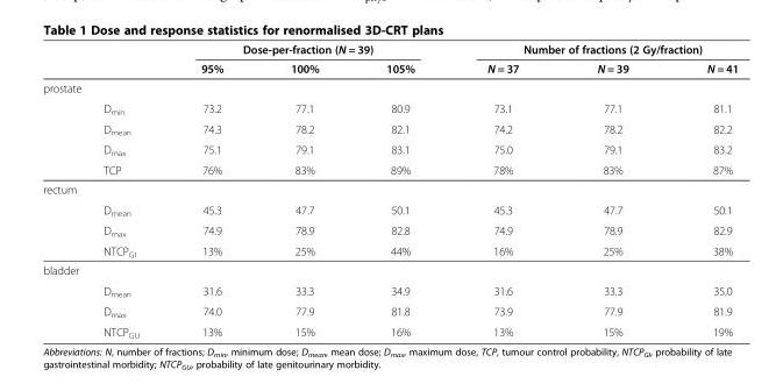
<table><thead><tr><td rowspan="2"></td><td rowspan="2"></td><td colspan="3">Dose-per-fraction (N = 39)</td><td colspan="3">Number of fractions (2 Gy/fraction)</td></tr><tr><td>95%</td><td>100%</td><td>105%</td><td>N = 37</td><td>N = 39</td><td>N = 41</td></tr></thead><tbody><tr><td colspan="8">prostate</td></tr><tr><td></td><td>D<sub>min</sub></td><td>73.2</td><td>77.1</td><td>80.9</td><td>73.1</td><td>77.1</td><td>81.1</td></tr><tr><td></td><td>D<sub>mean</sub></td><td>74.3</td><td>78.2</td><td>82.1</td><td>74.2</td><td>78.2</td><td>82.2</td></tr><tr><td></td><td>D<sub>max</sub></td><td>75.1</td><td>79.1</td><td>83.1</td><td>75.0</td><td>79.1</td><td>83.2</td></tr><tr><td></td><td>TCP</td><td>76%</td><td>83%</td><td>89%</td><td>78%</td><td>83%</td><td>87%</td></tr><tr><td colspan="8">rectum</td></tr><tr><td></td><td>D<sub>mean</sub></td><td>45.3</td><td>47.7</td><td>50.1</td><td>45.3</td><td>47.7</td><td>50.1</td></tr><tr><td></td><td>D<sub>max</sub></td><td>74.9</td><td>78.9</td><td>82.8</td><td>74.9</td><td>78.9</td><td>82.9</td></tr><tr><td></td><td>NTCP<sub>GI</sub></td><td>13%</td><td>25%</td><td>44%</td><td>16%</td><td>25%</td><td>38%</td></tr><tr><td colspan="8">bladder</td></tr><tr><td></td><td>D<sub>mean</sub></td><td>31.6</td><td>33.3</td><td>34.9</td><td>31.6</td><td>33.3</td><td>35.0</td></tr><tr><td></td><td>D<sub>max</sub></td><td>74.0</td><td>77.9</td><td>81.8</td><td>73.9</td><td>77.9</td><td>81.9</td></tr><tr><td></td><td>NTCP<sub>GU</sub></td><td>13%</td><td>15%</td><td>16%</td><td>13%</td><td>15%</td><td>19%</td></tr></tbody></table>